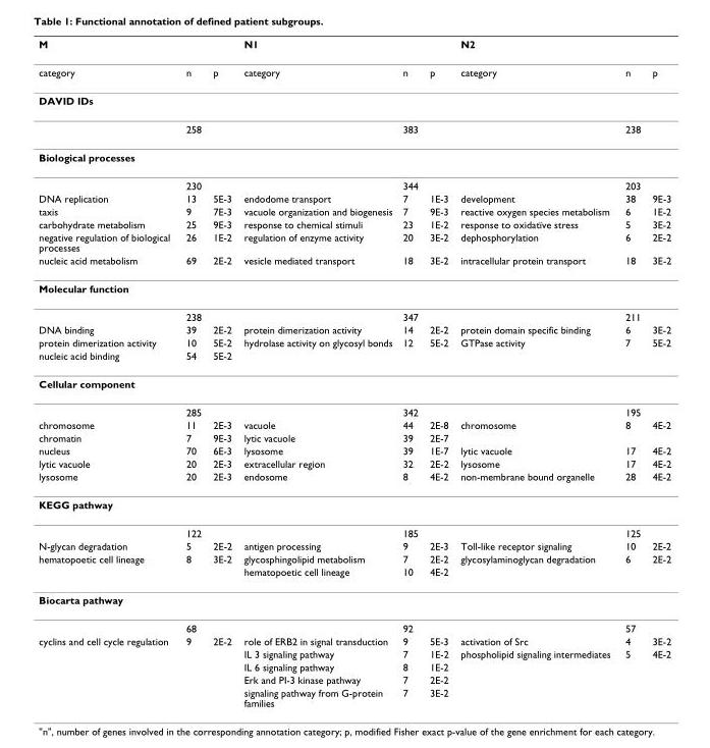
<table><thead><tr><td>M</td><td></td><td></td><td>N1</td><td></td><td></td><td>N2</td><td></td><td></td></tr></thead><tbody><tr><td>category</td><td>n</td><td>p</td><td>category</td><td>n</td><td>p</td><td>category</td><td>n</td><td>p</td></tr><tr><td colspan="9">DAVID IDs</td></tr><tr><td></td><td>258</td><td></td><td></td><td>383</td><td></td><td></td><td>238</td><td></td></tr><tr><td colspan="9">Biological processes</td></tr><tr><td></td><td>230</td><td></td><td></td><td>344</td><td></td><td></td><td>203</td><td></td></tr><tr><td>DNA replication</td><td>13</td><td>5E-3</td><td>endodome transport</td><td>7</td><td>1E-3</td><td>development</td><td>38</td><td>9E-3</td></tr><tr><td>taxis</td><td>9</td><td>7E-3</td><td>vacuole organization and biogenesis</td><td>7</td><td>9E-3</td><td>reactive oxygen species metabolism</td><td>6</td><td>1E-2</td></tr><tr><td>carbohydrate metabolism</td><td>25</td><td>9E-3</td><td>response to chemical stimuli</td><td>23</td><td>1E-2</td><td>response to oxidatïve stress</td><td>5</td><td>3E-2</td></tr><tr><td>negative regulation of biological processes</td><td>26</td><td>1E-2</td><td>regulation of enzyme activity</td><td>20</td><td>3E-2</td><td>dephosphorylation</td><td>6</td><td>2E-2</td></tr><tr><td>nucleic acid metabolism</td><td>69</td><td>2E-2</td><td>vesicle mediated transport</td><td>18</td><td>3E-2</td><td>intracellular protein transport</td><td>18</td><td>3E-2</td></tr><tr><td colspan="9">Molecular function</td></tr><tr><td></td><td>238</td><td></td><td></td><td>347</td><td></td><td></td><td>211</td><td></td></tr><tr><td>DNA binding</td><td>39</td><td>2E-2</td><td>protein dimerization activity</td><td>14</td><td>2E-2</td><td>protein domain specific binding</td><td>6</td><td>3E-2</td></tr><tr><td>protein dimerization activity</td><td>10</td><td>5E-2</td><td>hydrolase activity on glycosyl bonds</td><td>12</td><td>5E-2</td><td>GTPase activity</td><td>7</td><td>5E-2</td></tr><tr><td>nucleic acid binding</td><td>54</td><td>5E-2</td><td></td><td></td><td></td><td></td><td></td><td></td></tr><tr><td colspan="9">Cellular component</td></tr><tr><td></td><td>285</td><td></td><td></td><td>342</td><td></td><td></td><td>195</td><td></td></tr><tr><td>chromosome</td><td>11</td><td>2E-3</td><td>vacuole</td><td>44</td><td>2E-8</td><td>chromosome</td><td>8</td><td>4E-2</td></tr><tr><td>chromatin</td><td>7</td><td>9E-3</td><td>lytic vacuole</td><td>39</td><td>2E-7</td><td></td><td></td><td></td></tr><tr><td>nucleus</td><td>70</td><td>6E-3</td><td>lysosome</td><td>39</td><td>1E-7</td><td>lytic vacuole</td><td>17</td><td>4E-2</td></tr><tr><td>lytic vacuole</td><td>20</td><td>2E-3</td><td>extracellular region</td><td>32</td><td>2E-2</td><td>lysosome</td><td>17</td><td>4E-2</td></tr><tr><td>lysosome</td><td>20</td><td>2E-3</td><td>endosome</td><td>8</td><td>4E-2</td><td>non-membrane bound organelle</td><td>28</td><td>4E-2</td></tr><tr><td colspan="9">KEGG pathway</td></tr><tr><td></td><td>122</td><td></td><td></td><td>185</td><td></td><td></td><td>125</td><td></td></tr><tr><td>N-glycan degradation</td><td>5</td><td>2E-2</td><td>antigen processing</td><td>9</td><td>2E-3</td><td>Toll-like receptor signaling</td><td>10</td><td>2E-2</td></tr><tr><td rowspan="2">hematopoetic cell lineage</td><td>8</td><td>3E-2</td><td>glycosphingolipid metabolism</td><td>7</td><td>2E-2</td><td>glycosylaminoglycan degradation</td><td>6</td><td>2E-2</td></tr><tr><td></td><td></td><td>hematopoetic cell lineage</td><td>10</td><td>4E-2</td><td></td><td></td><td></td></tr><tr><td colspan="9">Biocarta pathway</td></tr><tr><td></td><td>68</td><td></td><td></td><td>92</td><td></td><td></td><td>57</td><td></td></tr><tr><td rowspan="5">cyclins and cell cycle regulation</td><td>9</td><td>2E-2</td><td>role of ERB2 in signal transduction</td><td>9</td><td>5E-3</td><td>activation of Src</td><td>4</td><td>3E-2</td></tr><tr><td></td><td></td><td>IL 3 signaling pathway</td><td>7</td><td>1E-2</td><td>phospholipid signaling intermediates</td><td>5</td><td>4E-2</td></tr><tr><td></td><td></td><td>IL 6 signaling pathway</td><td>8</td><td>1E-2</td><td></td><td></td><td></td></tr><tr><td></td><td></td><td>Erk and PI-3 kinase pathway</td><td>7</td><td>2E-2</td><td></td><td></td><td></td></tr><tr><td></td><td></td><td>signaling pathway from G-protein families</td><td>7</td><td>3E-2</td><td></td><td></td><td></td></tr></tbody></table>